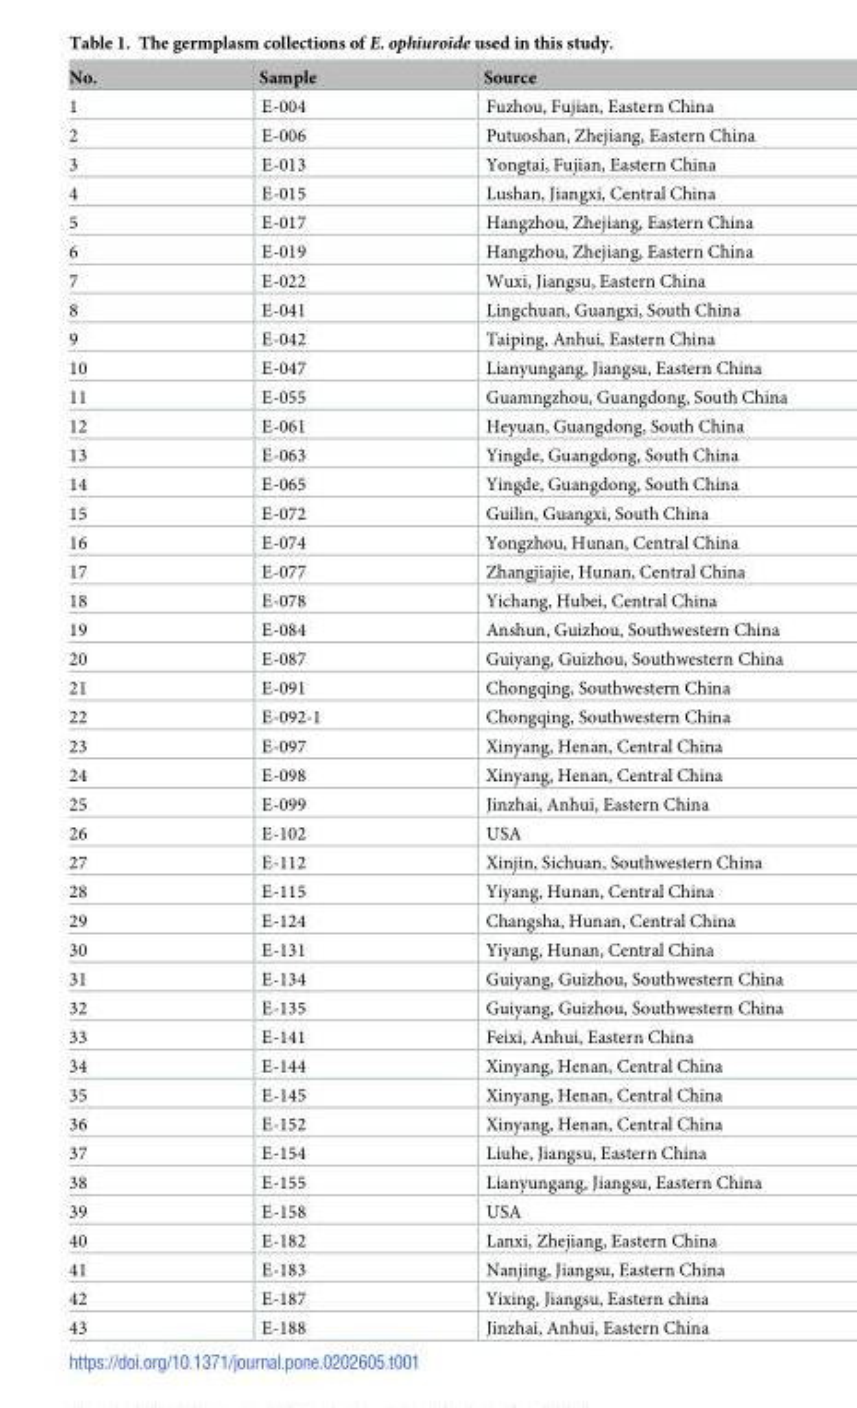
<table><thead><tr><td>No.</td><td>Sample</td><td>Source</td></tr></thead><tbody><tr><td>1</td><td>E-004</td><td>Fuzhou, Fujian, Eastern China</td></tr><tr><td>2</td><td>E-006</td><td>Putuoshan, Zhejiang, Eastern China</td></tr><tr><td>3</td><td>E-013</td><td>Yongtai, Fujian, Eastern China</td></tr><tr><td>4</td><td>E-015</td><td>Lushan, Jiangxi, Central China</td></tr><tr><td>5</td><td>E-017</td><td>Hangzhou, Zhejiang, Eastern China</td></tr><tr><td>6</td><td>E-019</td><td>Hangzhou, Zhejiang, Eastern China</td></tr><tr><td>7</td><td>E-022</td><td>Wuxi, Jiangsu, Eastern China</td></tr><tr><td>8</td><td>E-041</td><td>Lingchuan, Guangxi, South China</td></tr><tr><td>9</td><td>E-042</td><td>Taiping, Anhui, Eastern China</td></tr><tr><td>10</td><td>E-047</td><td>Lianyungang, Jiangsu, Eastern China</td></tr><tr><td>11</td><td>E-055</td><td>Guamngzhou, Guangdong, South China</td></tr><tr><td>12</td><td>E-061</td><td>Heyuan, Guangdong, South China</td></tr><tr><td>13</td><td>E-063</td><td>Yingde, Guangdong, South China</td></tr><tr><td>14</td><td>E-065</td><td>Yingde, Guangdong, South China</td></tr><tr><td>15</td><td>E-072</td><td>Guilin, Guangxi, South China</td></tr><tr><td>16</td><td>E-074</td><td>Yongzhou, Hunan, Central China</td></tr><tr><td>17</td><td>E-077</td><td>Zhangjiajie, Hunan, Central China</td></tr><tr><td>18</td><td>E-078</td><td>Yichang, Hubei, Central China</td></tr><tr><td>19</td><td>E-084</td><td>Anshun, Guizhou, Southwestern China</td></tr><tr><td>20</td><td>E-087</td><td>Guiyang, Guizhou, Southwestern China</td></tr><tr><td>21</td><td>E-091</td><td>Chongqing, Southwestern China</td></tr><tr><td>22</td><td>E-092-1</td><td>Chongqing, Southwestern China</td></tr><tr><td>23</td><td>E-097</td><td>Xinyang, Henan, Central China</td></tr><tr><td>24</td><td>E-098</td><td>Xinyang, Henan, Central China</td></tr><tr><td>25</td><td>E-099</td><td>Jinzhai, Anhui, Eastern China</td></tr><tr><td>26</td><td>E-102</td><td>USA</td></tr><tr><td>27</td><td>E-112</td><td>Xinjin, Sichuan, Southwestern China</td></tr><tr><td>28</td><td>E-115</td><td>Yiyang, Hunan, Central China</td></tr><tr><td>29</td><td>E-124</td><td>Changsha, Hunan, Central China</td></tr><tr><td>30</td><td>E-131</td><td>Yiyang, Hunan, Central China</td></tr><tr><td>31</td><td>E-134</td><td>Guiyang, Guizhou, Southwestern China</td></tr><tr><td>32</td><td>E-135</td><td>Guiyang, Guizhou, Southwestern China</td></tr><tr><td>33</td><td>E-141</td><td>Feixi, Anhui, Eastern China</td></tr><tr><td>34</td><td>E-144</td><td>Xinyang, Henan, Central China</td></tr><tr><td>35</td><td>E-145</td><td>Xinyang, Henan, Central China</td></tr><tr><td>36</td><td>E-152</td><td>Xinyang, Henan, Central China</td></tr><tr><td>37</td><td>E-154</td><td>Liuhe, Jiangsu, Eastern China</td></tr><tr><td>38</td><td>E-155</td><td>Lianyungang, Jiangsu, Eastern China</td></tr><tr><td>39</td><td>E-158</td><td>USA</td></tr><tr><td>40</td><td>E-182</td><td>Lanxi, Zhejiang, Eastern China</td></tr><tr><td>41</td><td>E-183</td><td>Nanjing, Jiangsu, Eastern China</td></tr><tr><td>42</td><td>E-187</td><td>Yixing, Jiangsu, Eastern china</td></tr><tr><td>43</td><td>E-188</td><td>Jinzhai, Anhui, Eastern China</td></tr></tbody></table>